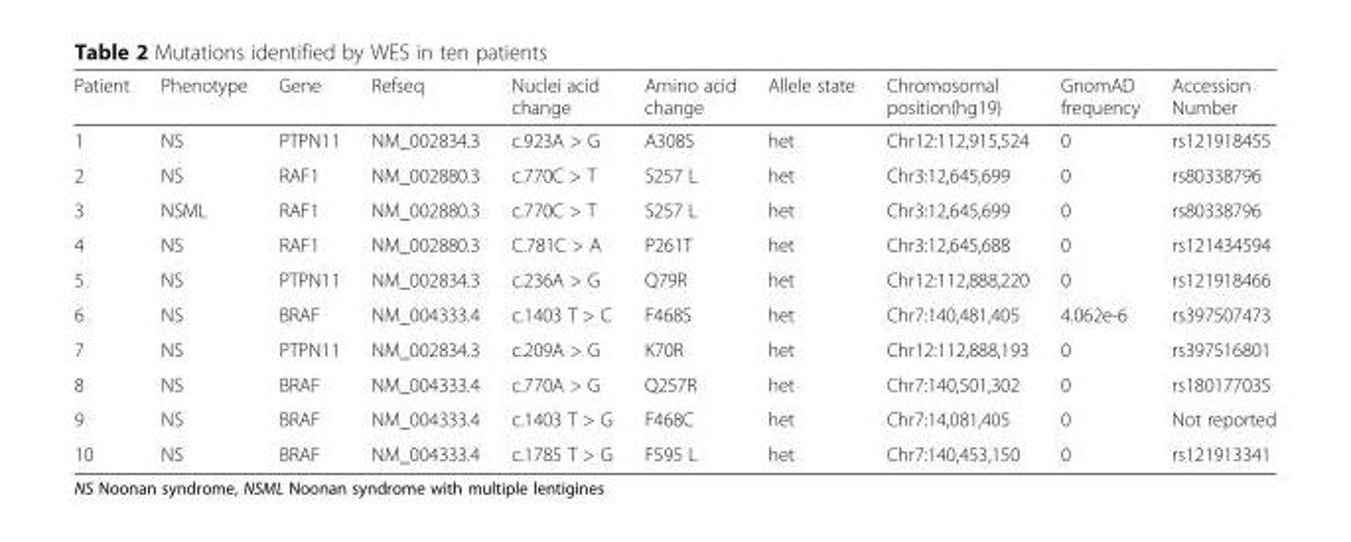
<table><thead><tr><td>Patient</td><td>Phenotype</td><td>Gene</td><td>Refseq</td><td>Nuclei acid change</td><td>Amino acid change</td><td>Allele state</td><td>Chromosomal position(hg19)</td><td>GnomAD frequency</td><td>Accession Number</td></tr></thead><tbody><tr><td>1</td><td>NS</td><td>PTPN11</td><td>NM_002834.3</td><td>c.923A &gt; G</td><td>A308S</td><td>het</td><td>Chr12:112,915,524</td><td>0</td><td>rs121918455</td></tr><tr><td>2</td><td>NS</td><td>RAF1</td><td>NM_002880.3</td><td>c.770C &gt; T</td><td>S257 L</td><td>het</td><td>Chr3:12,645,699</td><td>0</td><td>rs80338796</td></tr><tr><td>3</td><td>NSML</td><td>RAF1</td><td>NM_002880.3</td><td>c.770C &gt; T</td><td>S257 L</td><td>het</td><td>Chr3:12,645,699</td><td>0</td><td>rs80338796</td></tr><tr><td>4</td><td>NS</td><td>RAF1</td><td>NM_002880.3</td><td>C.781C &gt; A</td><td>P261T</td><td>het</td><td>Chr3:12,645,688</td><td>0</td><td>rs121434594</td></tr><tr><td>5</td><td>NS</td><td>PTPN11</td><td>NM_002834.3</td><td>c.236A &gt; G</td><td>Q79R</td><td>het</td><td>Chr12:112,888,220</td><td>0</td><td>rs121918466</td></tr><tr><td>6</td><td>NS</td><td>BRAF</td><td>NM_004333.4</td><td>c.1403 T &gt; C</td><td>F468S</td><td>het</td><td>Chr7:140,481,405</td><td>4.062e-6</td><td>rs397507473</td></tr><tr><td>7</td><td>NS</td><td>PTPN11</td><td>NM_002834.3</td><td>c.209A &gt; G</td><td>K70R</td><td>het</td><td>Chr12:112,888,193</td><td>0</td><td>rs397516801</td></tr><tr><td>8</td><td>NS</td><td>BRAF</td><td>NM_004333.4</td><td>c.770A &gt; G</td><td>Q257R</td><td>het</td><td>Chr7:140,501,302</td><td>0</td><td>rs180177035</td></tr><tr><td>9</td><td>NS</td><td>BRAF</td><td>NM_004333.4</td><td>c.1403 T &gt; G</td><td>F468C</td><td>het</td><td>Chr7:14,081,405</td><td>0</td><td>Not reported</td></tr><tr><td>10</td><td>NS</td><td>BRAF</td><td>NM_004333.4</td><td>c.1785 T &gt; G</td><td>F595 L</td><td>het</td><td>Chr7:140,453,150</td><td>0</td><td>rs121913341</td></tr></tbody></table>